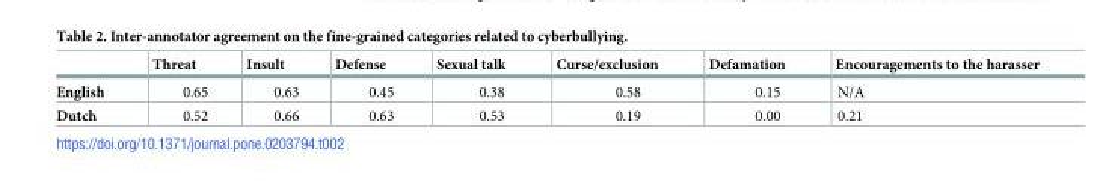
<table><thead><tr><td></td><td>Threat</td><td>Insult</td><td>Defense</td><td>Sexual talk</td><td>Curse/exclusion</td><td>Defamation</td><td>Encouragements to the harasser</td></tr></thead><tbody><tr><td>English</td><td>0.65</td><td>0.63</td><td>0.45</td><td>0.38</td><td>0.58</td><td>0.15</td><td>N/A</td></tr><tr><td>Dutch</td><td>0.52</td><td>0.66</td><td>0.63</td><td>0.53</td><td>0.19</td><td>0.00</td><td>0.21</td></tr></tbody></table>